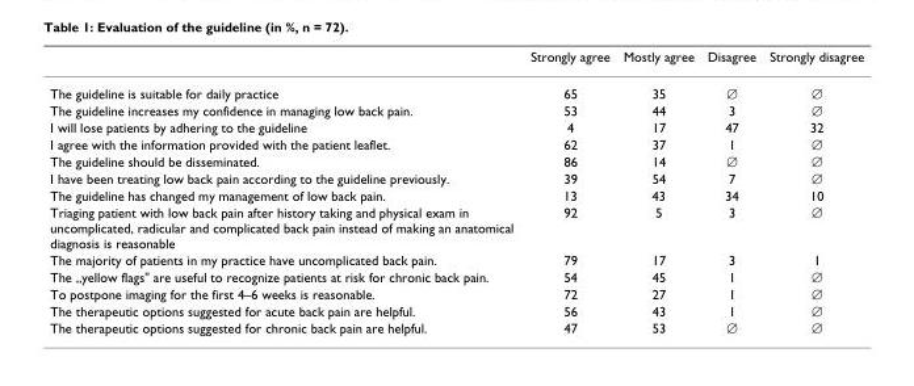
<table><thead><tr><td></td><td>Strongly agree</td><td>Mostly agree</td><td>Disagree</td><td>Strongly disagree</td></tr></thead><tbody><tr><td>The guideline is suitable for daily practice</td><td>65</td><td>35</td><td>∅</td><td>∅</td></tr><tr><td>The guideline increases my confidence in managing low back pain.</td><td>53</td><td>44</td><td>3</td><td>∅</td></tr><tr><td>I will lose patients by adhering to the guideline</td><td>4</td><td>17</td><td>47</td><td>32</td></tr><tr><td>I agree with the information provided with the patient leaflet.</td><td>62</td><td>37</td><td>1</td><td>∅</td></tr><tr><td>The guideline should be disseminated.</td><td>86</td><td>14</td><td>∅</td><td>∅</td></tr><tr><td>I have been treating low back pain according to the guideline previously.</td><td>39</td><td>54</td><td>7</td><td>∅</td></tr><tr><td>The guideline has changed my management of low back pain.</td><td>13</td><td>43</td><td>34</td><td>10</td></tr><tr><td>Triaging patient with low back pain after history taking and physical exam in uncomplicated, radicular and complicated back pain instead of making an anatomical diagnosis is reasonable</td><td>92</td><td>5</td><td>3</td><td>∅</td></tr><tr><td>The majority of patients in my practice have uncomplicated back pain.</td><td>79</td><td>17</td><td>3</td><td>1</td></tr><tr><td>The „yellow flags&quot; are useful to recognize patients at risk for chronic back pain.</td><td>54</td><td>45</td><td>1</td><td>∅</td></tr><tr><td>To postpone imaging for the first 4–6 weeks is reasonable.</td><td>72</td><td>27</td><td>1</td><td>∅</td></tr><tr><td>The therapeutic options suggested for acute back pain are helpful.</td><td>56</td><td>43</td><td>1</td><td>∅</td></tr><tr><td>The therapeutic options suggested for chronic back pain are helpful.</td><td>47</td><td>53</td><td>∅</td><td>∅</td></tr></tbody></table>